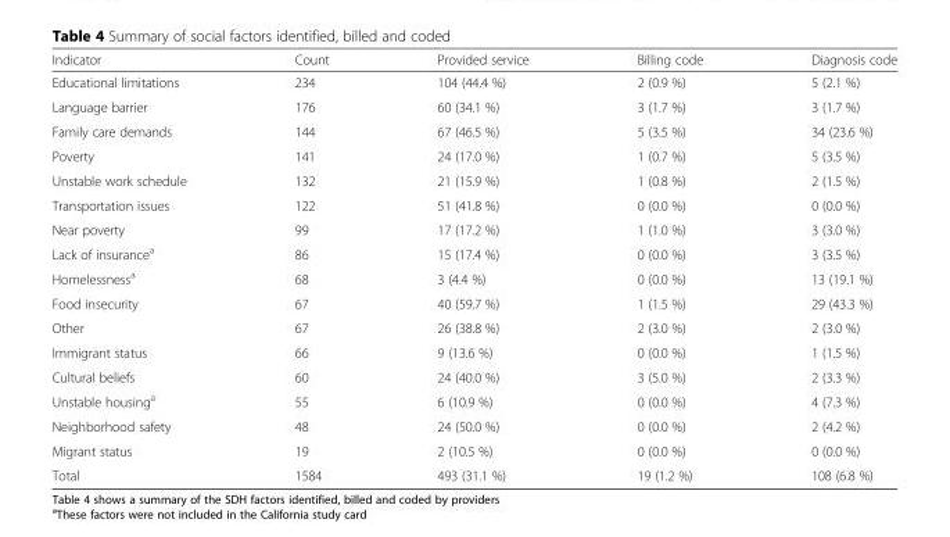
<table><thead><tr><td>Indicator</td><td>Count</td><td>Provided service</td><td>Billing code</td><td>Diagnosis code</td></tr></thead><tbody><tr><td>Educational limitations</td><td>234</td><td>104 (44.4 %)</td><td>2 (0.9 %)</td><td>5 (2.1 %)</td></tr><tr><td>Language barrier</td><td>176</td><td>60 (34.1 %)</td><td>3 (1.7 %)</td><td>3 (1.7 %)</td></tr><tr><td>Family care demands</td><td>144</td><td>67 (46.5 %)</td><td>5 (3.5 %)</td><td>34 (23.6 %)</td></tr><tr><td>Poverty</td><td>141</td><td>24 (17.0 %)</td><td>1 (0.7 %)</td><td>5 (3.5 %)</td></tr><tr><td>Unstable work schedule</td><td>132</td><td>21 (15.9 %)</td><td>1 (0.8 %)</td><td>2 (1.5 %)</td></tr><tr><td>Transportation issues</td><td>122</td><td>51 (41.8 %)</td><td>0 (0.0 %)</td><td>0 (0.0 %)</td></tr><tr><td>Near poverty</td><td>99</td><td>17 (17.2 %)</td><td>1 (1.0 %)</td><td>3 (3.0 %)</td></tr><tr><td>Lack of insurance<sup>a</sup></td><td>86</td><td>15 (17.4 %)</td><td>0 (0.0 %)</td><td>3 (3.5 %)</td></tr><tr><td>Homelessness<sup>a</sup></td><td>68</td><td>3 (4.4 %)</td><td>0 (0.0 %)</td><td>13 (19.1 %)</td></tr><tr><td>Food insecurity</td><td>67</td><td>40 (59.7 %)</td><td>1 (1.5 %)</td><td>29 (43.3 %)</td></tr><tr><td>Other</td><td>67</td><td>26 (38.8 %)</td><td>2 (3.0 %)</td><td>2 (3.0 %)</td></tr><tr><td>Immigrant status</td><td>66</td><td>9 (13.6 %)</td><td>0 (0.0 %)</td><td>1 (1.5 %)</td></tr><tr><td>Cultural beliefs</td><td>60</td><td>24 (40.0 %)</td><td>3 (5.0 %)</td><td>2 (3.3 %)</td></tr><tr><td>Unstable housing<sup>a</sup></td><td>55</td><td>6 (10.9 %)</td><td>0 (0.0 %)</td><td>4 (7.3 %)</td></tr><tr><td>Neighborhood safety</td><td>48</td><td>24 (50.0 %)</td><td>0 (0.0 %)</td><td>2 (4.2 %)</td></tr><tr><td>Migrant status</td><td>19</td><td>2 (10.5 %)</td><td>0 (0.0 %)</td><td>0 (0.0 %)</td></tr><tr><td>Total</td><td>1584</td><td>493 (31.1 %)</td><td>19 (1.2 %)</td><td>108 (6.8 %)</td></tr></tbody></table>